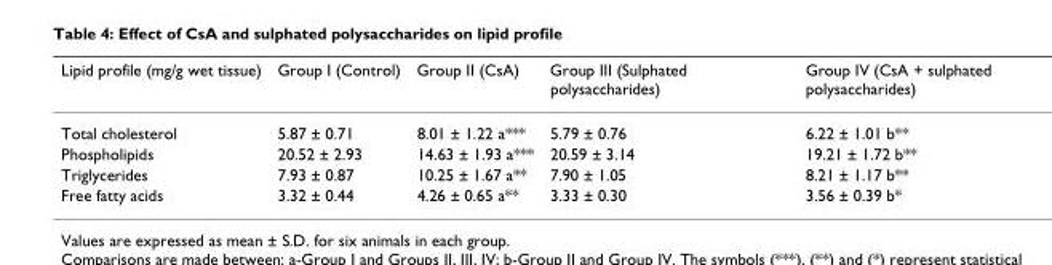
<table><thead><tr><td>Lipid profile (mg/g wet tissue)</td><td>Group I (Control)</td><td>Group II (CsA)</td><td>Group III (Sulphated polysaccharides)</td><td>Group IV (CsA + sulphated polysaccharides)</td></tr></thead><tbody><tr><td>Total cholesterol</td><td>5.87 ± 0.71</td><td>8.01 ± 1.22 a***</td><td>5.79 ± 0.76</td><td>6.22 ± 1.01 b**</td></tr><tr><td>Phospholipids</td><td>20.52 ± 2.93</td><td>14.63 ± 1.93 a***</td><td>20.59 ± 3.14</td><td>19.21 ± 1.72 b**</td></tr><tr><td>Triglycerides</td><td>7.93 ± 0.87</td><td>10.25 ± 1.67 a**</td><td>7.90 ± 1.05</td><td>8.21 ± 1.17 b**</td></tr><tr><td>Free fatty acids</td><td>3.32 ± 0.44</td><td>4.26 ± 0.65 a**</td><td>3.33 ± 0.30</td><td>3.56 ± 0.39 b*</td></tr></tbody></table>